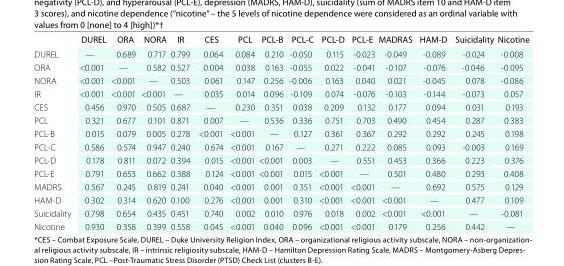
<table><thead><tr><td></td><td>DUREl</td><td>ORA</td><td>NORA</td><td>IR</td><td>CES</td><td>PCl</td><td>PCl-B</td><td>PCl-C</td><td>PCl-D</td><td>PCl-E</td><td>MADRAS</td><td>HAM-D</td><td>Suicidality</td><td>Nicotine</td></tr></thead><tbody><tr><td>DUREL</td><td>—</td><td>0.689</td><td>0.717</td><td>0.799</td><td>0.064</td><td>0.084</td><td>0.210</td><td>-0.050</td><td>0.115</td><td>-0.023</td><td>-0.049</td><td>-0.089</td><td>-0.024</td><td>-0.008</td></tr><tr><td>ORA</td><td>&lt;0.001</td><td>—</td><td>0.582</td><td>0.527</td><td>0.004</td><td>0.038</td><td>0.163</td><td>-0.055</td><td>0.022</td><td>-0.041</td><td>-0.107</td><td>-0.076</td><td>-0.046</td><td>-0.095</td></tr><tr><td>NORA</td><td>&lt;0.001</td><td>&lt;0.001</td><td>—</td><td>0.503</td><td>0.061</td><td>0.147</td><td>0.256</td><td>-0.006</td><td>0.163</td><td>0.040</td><td>0.021</td><td>-0.045</td><td>0.078</td><td>-0.086</td></tr><tr><td>IR</td><td>&lt;0.001</td><td>&lt;0.001</td><td>&lt;0.001</td><td>—</td><td>0.035</td><td>0.014</td><td>0.096</td><td>-0.109</td><td>0.074</td><td>-0.076</td><td>-0.103</td><td>-0.144</td><td>-0.073</td><td>0.057</td></tr><tr><td>CES</td><td>0.456</td><td>0.970</td><td>0.505</td><td>0.687</td><td>—</td><td>0.230</td><td>0.351</td><td>0.038</td><td>0.209</td><td>0.132</td><td>0.177</td><td>0.094</td><td>0.031</td><td>0.193</td></tr><tr><td>PCL</td><td>0.321</td><td>0.677</td><td>0.101</td><td>0.871</td><td>0.007</td><td>—</td><td>0.536</td><td>0.336</td><td>0.751</td><td>0.703</td><td>0.490</td><td>0.454</td><td>0.287</td><td>0.383</td></tr><tr><td>PCL-B</td><td>0.015</td><td>0.079</td><td>0.005</td><td>0.278</td><td>&lt;0.001</td><td>&lt;0.001</td><td>—</td><td>0.127</td><td>0.361</td><td>0.367</td><td>0.292</td><td>0.292</td><td>0.245</td><td>0.198</td></tr><tr><td>PCL-C</td><td>0.586</td><td>0.574</td><td>0.947</td><td>0.240</td><td>0.674</td><td>&lt;0.001</td><td>0.167</td><td>—</td><td>0.271</td><td>0.222</td><td>0.085</td><td>0.093</td><td>-0.003</td><td>0.169</td></tr><tr><td>PCL-D</td><td>0.178</td><td>0.811</td><td>0.072</td><td>0.394</td><td>0.015</td><td>&lt;0.001</td><td>&lt;0.001</td><td>0.003</td><td>—</td><td>0.551</td><td>0.453</td><td>0.366</td><td>0.223</td><td>0.376</td></tr><tr><td>PCL-E</td><td>0.791</td><td>0.653</td><td>0.662</td><td>0.388</td><td>0.124</td><td>&lt;0.001</td><td>&lt;0.001</td><td>0.015</td><td>&lt;0.001</td><td>—</td><td>0.501</td><td>0.480</td><td>0.293</td><td>0.408</td></tr><tr><td>MADRS</td><td>0.567</td><td>0.245</td><td>0.819</td><td>0.241</td><td>0.040</td><td>&lt;0.001</td><td>0.001</td><td>0.351</td><td>&lt;0.001</td><td>&lt;0.001</td><td>—</td><td>0.692</td><td>0.575</td><td>0.129</td></tr><tr><td>HAM-D</td><td>0.302</td><td>0.314</td><td>0.620</td><td>0.100</td><td>0.276</td><td>&lt;0.001</td><td>0.001</td><td>0.310</td><td>&lt;0.001</td><td>&lt;0.001</td><td>&lt;0.001</td><td>—</td><td>0.477</td><td>0.109</td></tr><tr><td>Suicidality</td><td>0.798</td><td>0.654</td><td>0.435</td><td>0.451</td><td>0.740</td><td>0.002</td><td>0.010</td><td>0.976</td><td>0.018</td><td>0.002</td><td>&lt;0.001</td><td>&lt;0.001</td><td>—</td><td>-0.081</td></tr><tr><td>Nicotine</td><td>0.930</td><td>0.358</td><td>0.399</td><td>0.558</td><td>0.045</td><td>&lt;0.001</td><td>0.040</td><td>0.096</td><td>&lt;0.001</td><td>&lt;0.001</td><td>0.179</td><td>0.256</td><td>0.442</td><td>—</td></tr></tbody></table>